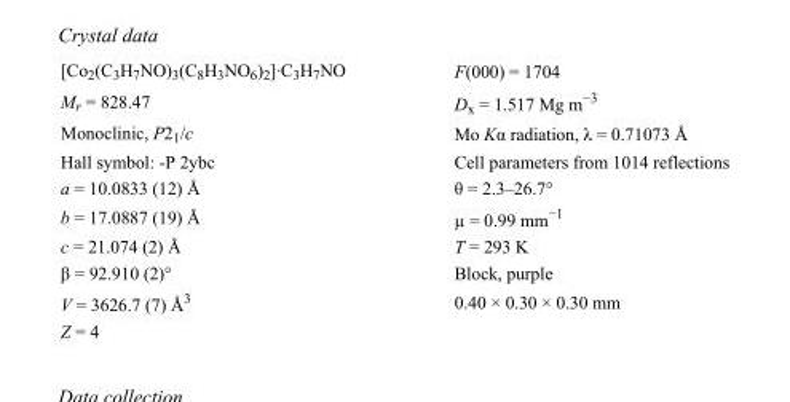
<table><tbody><tr><td>[Co<sub>2</sub>(C<sub>3</sub>H<sub>7</sub>NO)<sub>3</sub>(C<sub>8</sub>H<sub>3</sub>NO<sub>6</sub>)<sub>2</sub>]·C<sub>3</sub>H<sub>7</sub>NO</td><td>F(000) = 1704</td></tr><tr><td>M<sub>r</sub> = 828.47</td><td>D<sub>x</sub> = 1.517 Mg m<sup>−3</sup></td></tr><tr><td>Monoclinic, P2<sub>1</sub>/c</td><td>Mo Kα radiation, λ = 0.71073 Å</td></tr><tr><td>Hall symbol: -P 2ybc</td><td>Cell parameters from 1014 reflections</td></tr><tr><td>a = 10.0833 (12) Å</td><td>θ = 2.3–26.7°</td></tr><tr><td>b = 17.0887 (19) Å</td><td>µ = 0.99 mm<sup>−1</sup></td></tr><tr><td>c = 21.074 (2) Å</td><td>T = 293 K</td></tr><tr><td>β = 92.910 (2)°</td><td>Block, purple</td></tr><tr><td>V = 3626.7 (7) Å<sup>3</sup></td><td>0.40 × 0.30 × 0.30 mm</td></tr><tr><td>Z = 4</td><td></td></tr></tbody></table>